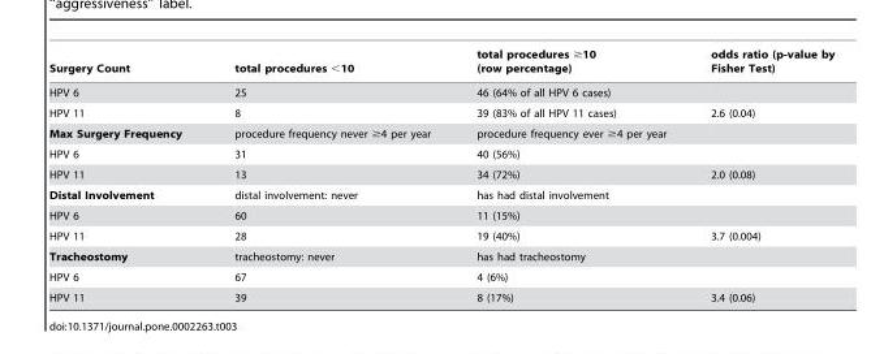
<table><thead><tr><td>Surgery Count</td><td>total procedures &lt;10</td><td>total procedures ≥10 (row percentage)</td><td>odds ratio (p-value by Fisher Test)</td></tr></thead><tbody><tr><td>HPV 6</td><td>25</td><td>46 (64% of all HPV 6 cases)</td><td></td></tr><tr><td>HPV 11</td><td>8</td><td>39 (83% of all HPV 11 cases)</td><td>2.6 (0.04)</td></tr><tr><td>Max Surgery Frequency</td><td>procedure frequency never ≥4 per year</td><td>procedure frequency ever ≥4 per year</td><td></td></tr><tr><td>HPV 6</td><td>31</td><td>40 (56%)</td><td></td></tr><tr><td>HPV 11</td><td>13</td><td>34 (72%)</td><td>2.0 (0.08)</td></tr><tr><td>Distal Involvement</td><td>distal involvement: never</td><td>has had distal involvement</td><td></td></tr><tr><td>HPV 6</td><td>60</td><td>11 (15%)</td><td></td></tr><tr><td>HPV 11</td><td>28</td><td>19 (40%)</td><td>3.7 (0.004)</td></tr><tr><td>Tracheostomy</td><td>tracheostomy: never</td><td>has had tracheostomy</td><td></td></tr><tr><td>HPV 6</td><td>67</td><td>4 (6%)</td><td></td></tr><tr><td>HPV 11</td><td>39</td><td>8 (17%)</td><td>3.4 (0.06)</td></tr></tbody></table>